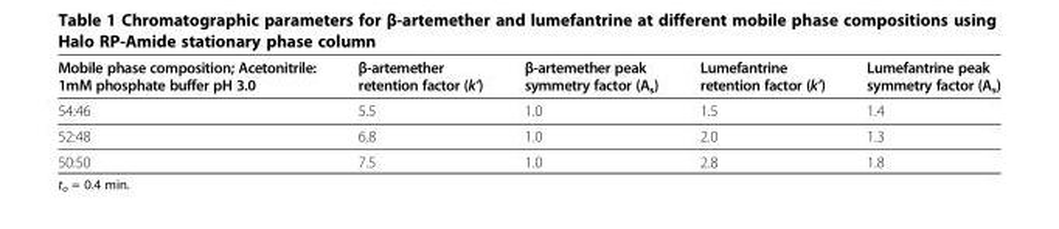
<table><thead><tr><td>Mobile phase composition; Acetonitrile: 1mM phosphate buffer pH 3.0</td><td>β-artemether retention factor (k’)</td><td>β-artemether peak symmetry factor (A<sub>s</sub>)</td><td>Lumefantrine retention factor (k’)</td><td>Lumefantrine peak symmetry factor (A<sub>s</sub>)</td></tr></thead><tbody><tr><td>54:46</td><td>5.5</td><td>1.0</td><td>1.5</td><td>1.4</td></tr><tr><td>52:48</td><td>6.8</td><td>1.0</td><td>2.0</td><td>1.3</td></tr><tr><td>50:50</td><td>7.5</td><td>1.0</td><td>2.8</td><td>1.8</td></tr></tbody></table>